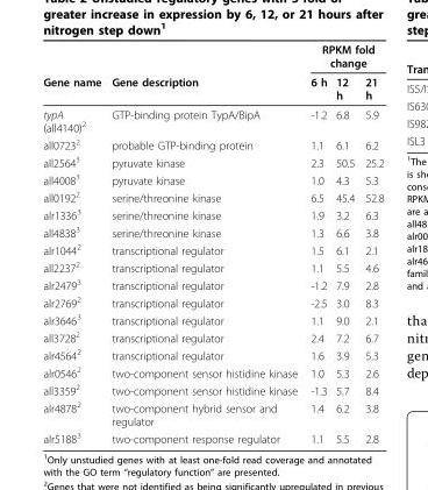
<table><thead><tr><td rowspan="2">Gene name</td><td rowspan="2">Gene description</td><td colspan="3">RPKM fold change</td></tr><tr><td>6 h</td><td>12 h</td><td>21 h</td></tr></thead><tbody><tr><td>typA (all4140)<sup>2</sup></td><td>GTP-binding protein TypA/BipA</td><td>-1.2</td><td>6.8</td><td>5.9</td></tr><tr><td>all0723<sup>2</sup></td><td>probable GTP-binding protein</td><td>1.1</td><td>6.1</td><td>6.2</td></tr><tr><td>all2564<sup>3</sup></td><td>pyruvate kinase</td><td>2.3</td><td>50.5</td><td>25.2</td></tr><tr><td>all4008<sup>3</sup></td><td>pyruvate kinase</td><td>1.0</td><td>4.3</td><td>5.3</td></tr><tr><td>all0192<sup>2</sup></td><td>serine/threonine kinase</td><td>6.5</td><td>45.4</td><td>52.8</td></tr><tr><td>alr1336<sup>3</sup></td><td>serine/threonine kinase</td><td>1.9</td><td>3.2</td><td>6.3</td></tr><tr><td>all4838<sup>3</sup></td><td>serine/threonine kinase</td><td>1.3</td><td>6.6</td><td>3.8</td></tr><tr><td>alr1044<sup>2</sup></td><td>transcriptional regulator</td><td>1.5</td><td>6.1</td><td>2.1</td></tr><tr><td>all2237<sup>2</sup></td><td>transcriptional regulator</td><td>1.1</td><td>5.5</td><td>4.6</td></tr><tr><td>alr2479<sup>3</sup></td><td>transcriptional regulator</td><td>-1.2</td><td>7.9</td><td>2.8</td></tr><tr><td>alr2769<sup>2</sup></td><td>transcriptional regulator</td><td>-2.5</td><td>3.0</td><td>8.3</td></tr><tr><td>alr3646<sup>3</sup></td><td>transcriptional regulator</td><td>1.1</td><td>9.0</td><td>2.1</td></tr><tr><td>all3728<sup>2</sup></td><td>transcriptional regulator</td><td>2.4</td><td>7.2</td><td>6.7</td></tr><tr><td>alr4564<sup>2</sup></td><td>transcriptional regulator</td><td>1.6</td><td>3.9</td><td>5.3</td></tr><tr><td>alr0546<sup>2</sup></td><td>two-component sensor histidine kinase</td><td>1.0</td><td>5.3</td><td>2.6</td></tr><tr><td>all3359<sup>2</sup></td><td>two-component sensor histidine kinase</td><td>-1.3</td><td>5.7</td><td>8.4</td></tr><tr><td>alr4878<sup>2</sup></td><td>two-component hybrid sensor and regulator</td><td>1.4</td><td>6.2</td><td>3.8</td></tr><tr><td>alr5188<sup>3</sup></td><td>two-component response regulator</td><td>1.1</td><td>5.5</td><td>2.8</td></tr></tbody></table>